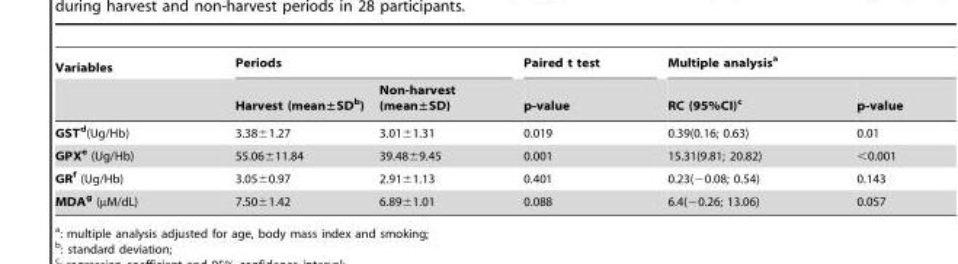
<table><thead><tr><td rowspan="2">Variables</td><td colspan="2">Periods</td><td rowspan="2">Paired t test p-value</td><td colspan="2">Multiple analysis<sup>a</sup></td></tr><tr><td>Harvest (mean±SD<sup>b</sup>)</td><td>Non-harvest (mean±SD)</td><td>RC (95%CI)<sup>c</sup></td><td>p-value</td></tr></thead><tbody><tr><td>GSTd(Ug/Hb)</td><td>3.38±1.27</td><td>3.01±1.31</td><td>0.019</td><td>0.39(0.16; 0.63)</td><td>0.01</td></tr><tr><td>GPXe (Ug/Hb)</td><td>55.06±11.84</td><td>39.48±9.45</td><td>0.001</td><td>15.31(9.81; 20.82)</td><td>&lt;0.001</td></tr><tr><td>GRf (Ug/Hb)</td><td>3.05±0.97</td><td>2.91±1.13</td><td>0.401</td><td>0.23(−0.08; 0.54)</td><td>0.143</td></tr><tr><td>MDAg (µM/dL)</td><td>7.50±1.42</td><td>6.89±1.01</td><td>0.088</td><td>6.4(−0.26; 13.06)</td><td>0.057</td></tr></tbody></table>